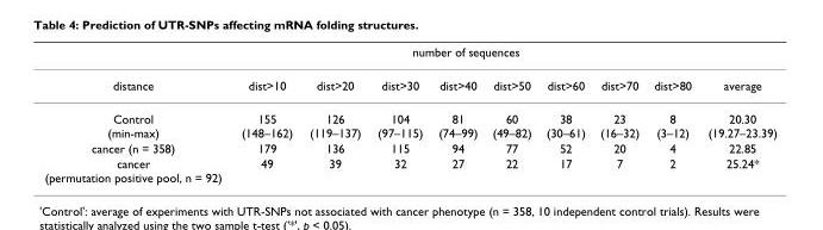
<table><thead><tr><td rowspan="2">distance</td><td colspan="8">number of sequences</td><td rowspan="2">average</td></tr><tr><td>dist&gt;10</td><td>dist&gt;20</td><td>dist&gt;30</td><td>dist&gt;40</td><td>dist&gt;50</td><td>dist&gt;60</td><td>dist&gt;70</td><td>dist&gt;80</td></tr></thead><tbody><tr><td>Control (min-max)</td><td>155 (148–162)</td><td>126 (119–137)</td><td>104 (97–115)</td><td>81 (74–99)</td><td>60 (49–82)</td><td>38 (30–61)</td><td>23 (16–32)</td><td>8 (3–12)</td><td>20.30 (19.27–23.39)</td></tr><tr><td>cancer (n = 358)</td><td>179</td><td>136</td><td>115</td><td>94</td><td>77</td><td>52</td><td>20</td><td>4</td><td>22.85</td></tr><tr><td>cancer (permutation positive pool, n = 92)</td><td>49</td><td>39</td><td>32</td><td>27</td><td>22</td><td>17</td><td>7</td><td>2</td><td>25.24*</td></tr></tbody></table>